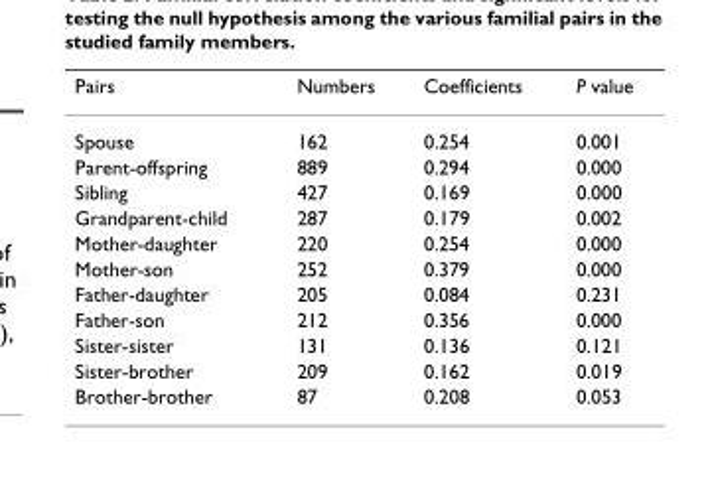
<table><thead><tr><td>Pairs</td><td>Numbers</td><td>Coefficients</td><td>P value</td></tr></thead><tbody><tr><td>Spouse</td><td>162</td><td>0.254</td><td>0.001</td></tr><tr><td>Parent-offspring</td><td>889</td><td>0.294</td><td>0.000</td></tr><tr><td>Sibling</td><td>427</td><td>0.169</td><td>0.000</td></tr><tr><td>Grandparent-child</td><td>287</td><td>0.179</td><td>0.002</td></tr><tr><td>Mother-daughter</td><td>220</td><td>0.254</td><td>0.000</td></tr><tr><td>Mother-son</td><td>252</td><td>0.379</td><td>0.000</td></tr><tr><td>Father-daughter</td><td>205</td><td>0.084</td><td>0.231</td></tr><tr><td>Father-son</td><td>212</td><td>0.356</td><td>0.000</td></tr><tr><td>Sister-sister</td><td>131</td><td>0.136</td><td>0.121</td></tr><tr><td>Sister-brother</td><td>209</td><td>0.162</td><td>0.019</td></tr><tr><td>Brother-brother</td><td>87</td><td>0.208</td><td>0.053</td></tr></tbody></table>